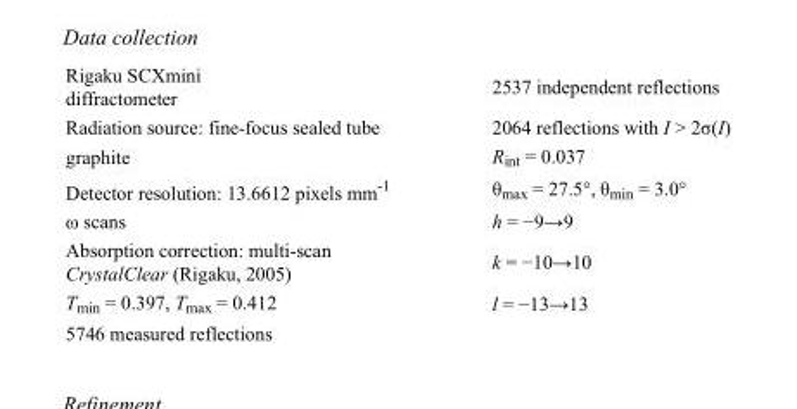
<table><tbody><tr><td>Rigaku SCXmini diffractometer</td><td>2537 independent reflections</td></tr><tr><td>Radiation source: fine-focus sealed tube</td><td>2064 reflections with I &gt; 2σ(I)</td></tr><tr><td>graphite</td><td>R<sub>int</sub> = 0.037</td></tr><tr><td>Detector resolution: 13.6612 pixels mm<sup>-1</sup></td><td>θ<sub>max</sub> = 27.5°, θ<sub>min</sub> = 3.0°</td></tr><tr><td>ω scans</td><td>h = −9→9</td></tr><tr><td>Absorption correction: multi-scan CrystalClear (Rigaku, 2005)</td><td>k = −10→10</td></tr><tr><td>T<sub>min</sub> = 0.397, T<sub>max</sub> = 0.412</td><td>l = −13→13</td></tr><tr><td>5746 measured reflections</td><td></td></tr></tbody></table>